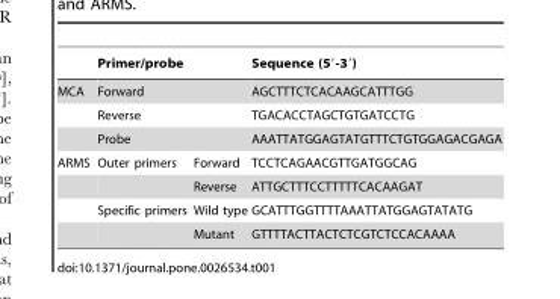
<table><thead><tr><td></td><td colspan="2">Primer/probe</td><td>Sequence (5′-3′)</td></tr></thead><tbody><tr><td rowspan="3">MCA</td><td colspan="2">Forward</td><td>AGCTTTCTCACAAGCATTTGG</td></tr><tr><td colspan="2">Reverse</td><td>TGACACCTAGCTGTGATCCTG</td></tr><tr><td colspan="2">Probe</td><td>AAATTATGGAGTATGTTTCTGTGGAGACGAGA</td></tr><tr><td rowspan="4">ARMS</td><td>Outer primers</td><td>Forward</td><td>TCCTCAGAACGTTGATGGCAG</td></tr><tr><td></td><td>Reverse</td><td>ATTGCTTTCCTTTTTCACAAGAT</td></tr><tr><td>Specific primers</td><td>Wild type</td><td>GCATTTGGTTTTAAATTATGGAGTATATG</td></tr><tr><td></td><td>Mutant</td><td>GTTTTACTTACTCTCGTCTCCACAAAA</td></tr></tbody></table>